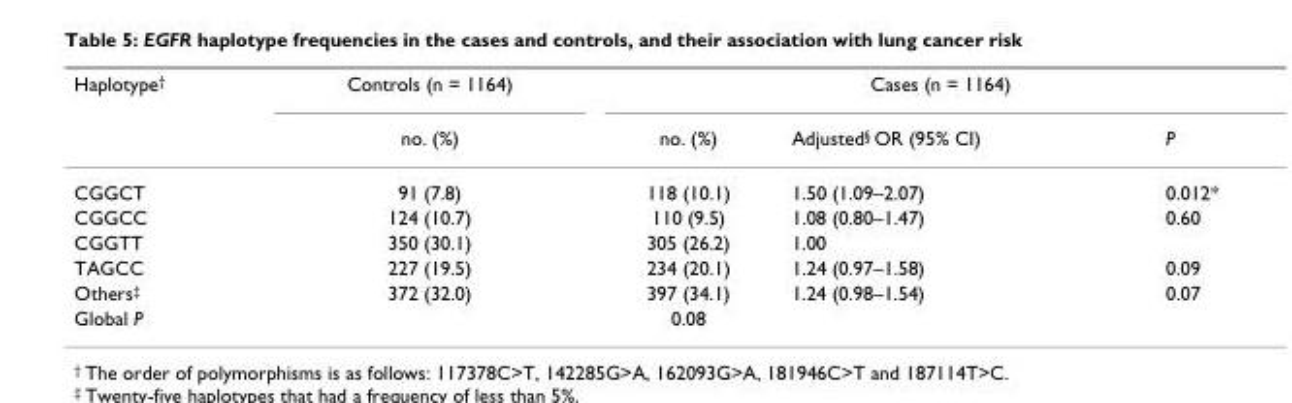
<table><thead><tr><td rowspan="2">Haplotype<sup>†</sup></td><td rowspan="2">Controls (n = 1164) no. (%)</td><td colspan="3">Cases (n = 1164)</td></tr><tr><td>no. (%)</td><td>Adjusted<sup>§</sup> OR (95% CI)</td><td>P</td></tr></thead><tbody><tr><td>CGGCT</td><td>91 (7.8)</td><td>118 (10.1)</td><td>1.50 (1.09–2.07)</td><td>0.012*</td></tr><tr><td>CGGCC</td><td>124 (10.7)</td><td>110 (9.5)</td><td>1.08 (0.80–1.47)</td><td>0.60</td></tr><tr><td>CGGTT</td><td>350 (30.1)</td><td>305 (26.2)</td><td>1.00</td><td></td></tr><tr><td>TAGCC</td><td>227 (19.5)</td><td>234 (20.1)</td><td>1.24 (0.97–1.58)</td><td>0.09</td></tr><tr><td>Others<sup>‡</sup></td><td>372 (32.0)</td><td>397 (34.1)</td><td>1.24 (0.98–1.54)</td><td>0.07</td></tr><tr><td>Global P</td><td></td><td>0.08</td><td></td><td></td></tr></tbody></table>